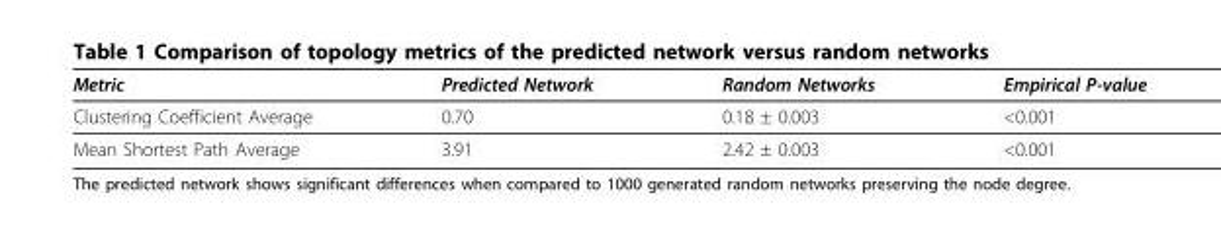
<table><thead><tr><td>Metric</td><td>Predicted Network</td><td>Random Networks</td><td>Empirical P-value</td></tr></thead><tbody><tr><td>Clustering Coefficient Average</td><td>0.70</td><td>0.18 ± 0.003</td><td>&lt;0.001</td></tr><tr><td>Mean Shortest Path Average</td><td>3.91</td><td>2.42 ± 0.003</td><td>&lt;0.001</td></tr></tbody></table>